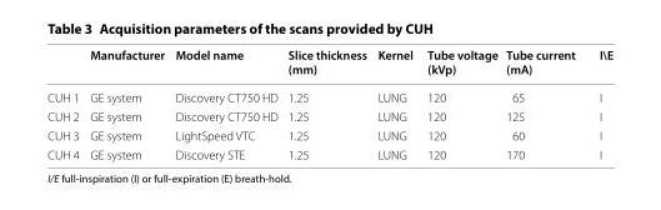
<table><thead><tr><td></td><td>Manufacturer</td><td>Model name</td><td>Slice thickness (mm)</td><td>Kernel</td><td>Tube voltage (kVp)</td><td>Tube current (mA)</td><td>I\E</td></tr></thead><tbody><tr><td>CUH 1</td><td>GE system</td><td>Discovery CT750 HD</td><td>1.25</td><td>LUNG</td><td>120</td><td>65</td><td>I</td></tr><tr><td>CUH 2</td><td>GE system</td><td>Discovery CT750 HD</td><td>1.25</td><td>LUNG</td><td>120</td><td>125</td><td>I</td></tr><tr><td>CUH 3</td><td>GE system</td><td>LightSpeed VTC</td><td>1.25</td><td>LUNG</td><td>120</td><td>60</td><td>I</td></tr><tr><td>CUH 4</td><td>GE system</td><td>Discovery STE</td><td>1.25</td><td>LUNG</td><td>120</td><td>170</td><td>I</td></tr></tbody></table>